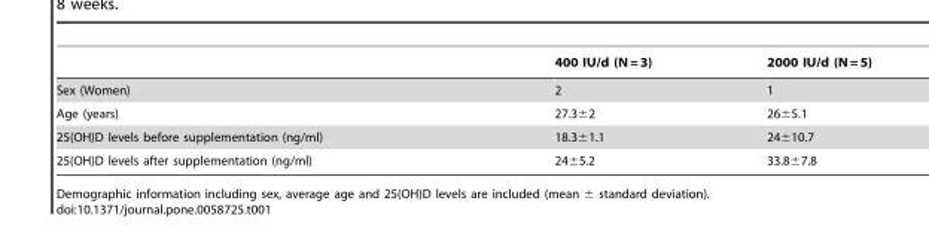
<table><thead><tr><td></td><td>400 IU/d (N = 3)</td><td>2000 IU/d (N = 5)</td></tr></thead><tbody><tr><td>Sex (Women)</td><td>2</td><td>1</td></tr><tr><td>Age (years)</td><td>27.3±2</td><td>26±5.1</td></tr><tr><td>25(OH)D levels before supplementation (ng/ml)</td><td>18.3±1.1</td><td>24±10.7</td></tr><tr><td>25(OH)D levels after supplementation (ng/ml)</td><td>24±5.2</td><td>33.8±7.8</td></tr></tbody></table>